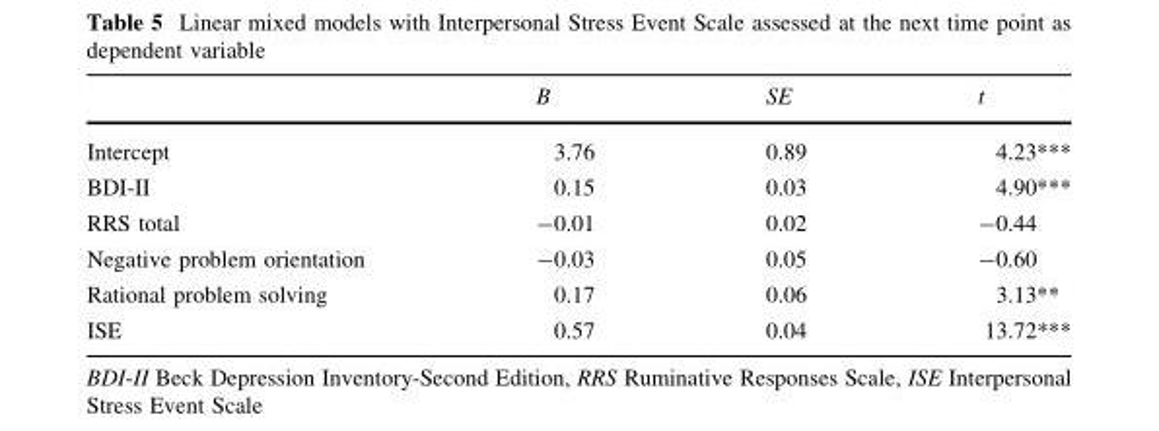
<table><thead><tr><td></td><td>B</td><td>SE</td><td>t</td></tr></thead><tbody><tr><td>Intercept</td><td>3.76</td><td>0.89</td><td>4.23***</td></tr><tr><td>BDI-II</td><td>0.15</td><td>0.03</td><td>4.90***</td></tr><tr><td>RRS total</td><td>-0.01</td><td>0.02</td><td>-0.44</td></tr><tr><td>Negative problem orientation</td><td>-0.03</td><td>0.05</td><td>-0.60</td></tr><tr><td>Rational problem solving</td><td>0.17</td><td>0.06</td><td>3.13**</td></tr><tr><td>ISE</td><td>0.57</td><td>0.04</td><td>13.72***</td></tr></tbody></table>